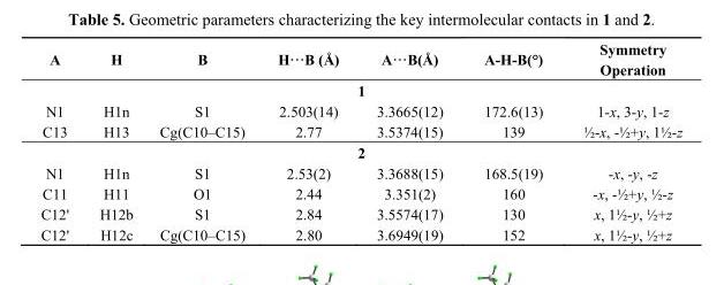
<table><thead><tr><td>A</td><td>H</td><td>B</td><td>H···B (Å)</td><td>A···B(Å)</td><td>A-H-B(°)</td><td>Symmetry Operation</td></tr></thead><tbody><tr><td colspan="7">1</td></tr><tr><td>N1</td><td>H1n</td><td>S1</td><td>2.503(14)</td><td>3.3665(12)</td><td>172.6(13)</td><td>1-x, 3-y, 1-z</td></tr><tr><td>C13</td><td>H13</td><td>Cg(C10–C15)</td><td>2.77</td><td>3.5374(15)</td><td>139</td><td>½-x, -½+y, 1½-z</td></tr><tr><td colspan="7">2</td></tr><tr><td>N1</td><td>H1n</td><td>S1</td><td>2.53(2)</td><td>3.3688(15)</td><td>168.5(19)</td><td>-x, -y, -z</td></tr><tr><td>C11</td><td>H11</td><td>O1</td><td>2.44</td><td>3.351(2)</td><td>160</td><td>-x, -½+y, ½-z</td></tr><tr><td>C12&#x27;</td><td>H12b</td><td>S1</td><td>2.84</td><td>3.5574(17)</td><td>130</td><td>x, 1½-y, ½+z</td></tr><tr><td>C12&#x27;</td><td>H12c</td><td>Cg(C10–C15)</td><td>2.80</td><td>3.6949(19)</td><td>152</td><td>x, 1½-y, ½+z</td></tr></tbody></table>